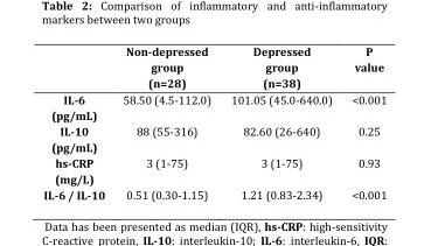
<table><thead><tr><td></td><td>Non-depressed group (n=28)</td><td>Depressed group (n=38)</td><td>P value</td></tr></thead><tbody><tr><td>IL-6 (pg/mL)</td><td>58.50 (4.5-112.0)</td><td>101.05 (45.0-640.0)</td><td>&lt;0.001</td></tr><tr><td>IL-10 (pg/mL)</td><td>88 (55-316)</td><td>82.60 (26-640)</td><td>0.25</td></tr><tr><td>hs-CRP (mg/L)</td><td>3 (1-75)</td><td>3 (1-75)</td><td>0.93</td></tr><tr><td>IL-6 / IL-10</td><td>0.51 (0.30-1.15)</td><td>1.21 (0.83-2.34)</td><td>&lt;0.001</td></tr></tbody></table>